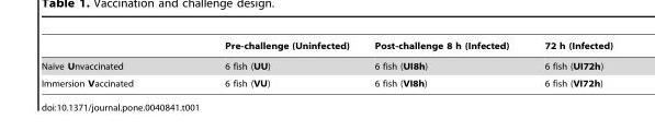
<table><thead><tr><td></td><td>Pre-challenge (Uninfected)</td><td>Post-challenge 8 h (Infected)</td><td>72 h (Infected)</td></tr></thead><tbody><tr><td>Naive Unvaccinated</td><td>6 fish (UU)</td><td>6 fish (UI8h)</td><td>6 fish (UI72h)</td></tr><tr><td>Immersion Vaccinated</td><td>6 fish (VU)</td><td>6 fish (VI8h)</td><td>6 fish (VI72h)</td></tr></tbody></table>